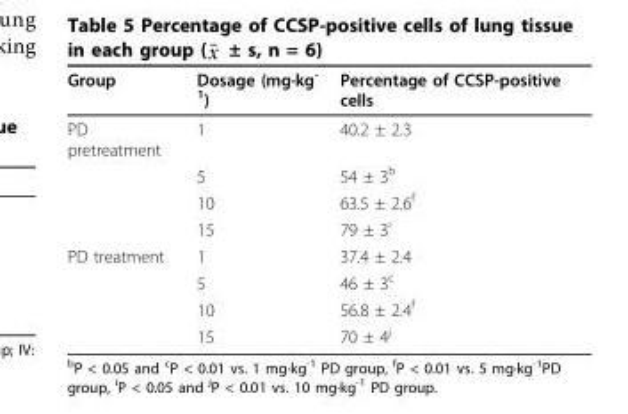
<table><thead><tr><td>Group</td><td>Dosage (mg·kg<sup>- 1</sup>)</td><td>Percentage of CCSP-positive cells</td></tr></thead><tbody><tr><td rowspan="4">PD pretreatment</td><td>1</td><td>40.2 ± 2.3</td></tr><tr><td>5</td><td>54 ± 3<sup>b</sup></td></tr><tr><td>10</td><td>63.5 ± 2.6<sup>f</sup></td></tr><tr><td>15</td><td>79 ± 3<sup>i</sup></td></tr><tr><td rowspan="4">PD treatment</td><td>1</td><td>37.4 ± 2.4</td></tr><tr><td>5</td><td>46 ± 3<sup>c</sup></td></tr><tr><td>10</td><td>56.8 ± 2.4<sup>f</sup></td></tr><tr><td>15</td><td>70 ± 4<sup>j</sup></td></tr></tbody></table>